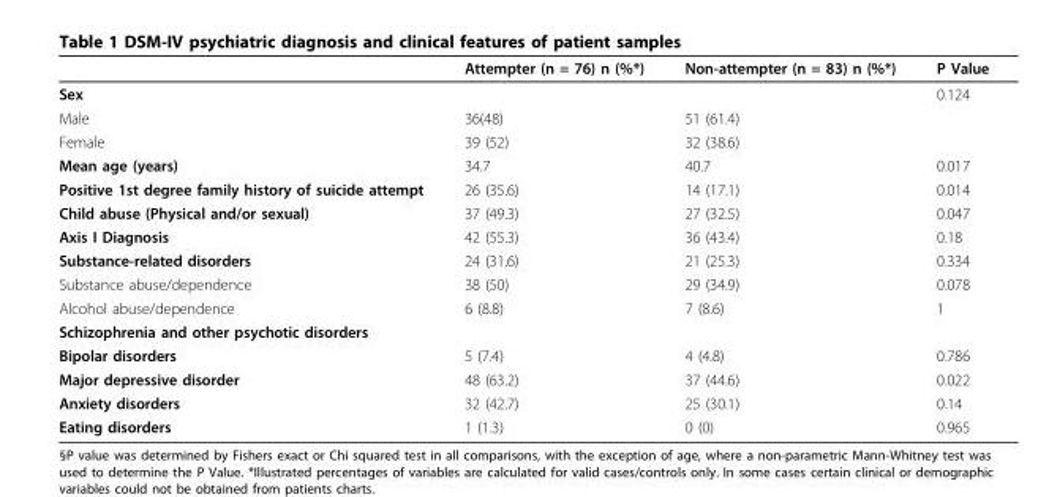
<table><thead><tr><td></td><td>Attempter (n = 76) n (%*)</td><td>Non-attempter (n = 83) n (%*)</td><td>P Value</td></tr></thead><tbody><tr><td>Sex</td><td></td><td></td><td>0.124</td></tr><tr><td>Male</td><td>36(48)</td><td>51 (61.4)</td><td></td></tr><tr><td>Female</td><td>39 (52)</td><td>32 (38.6)</td><td></td></tr><tr><td>Mean age (years)</td><td>34.7</td><td>40.7</td><td>0.017</td></tr><tr><td>Positive 1st degree family history of suicide attempt</td><td>26 (35.6)</td><td>14 (17.1)</td><td>0.014</td></tr><tr><td>Child abuse (Physical and/or sexual)</td><td>37 (49.3)</td><td>27 (32.5)</td><td>0.047</td></tr><tr><td>Axis I Diagnosis</td><td>42 (55.3)</td><td>36 (43.4)</td><td>0.18</td></tr><tr><td>Substance-related disorders</td><td>24 (31.6)</td><td>21 (25.3)</td><td>0.334</td></tr><tr><td>Substance abuse/dependence</td><td>38 (50)</td><td>29 (34.9)</td><td>0.078</td></tr><tr><td>Alcohol abuse/dependence</td><td>6 (8.8)</td><td>7 (8.6)</td><td>1</td></tr><tr><td colspan="4">Schizophrenia and other psychotic disorders</td></tr><tr><td>Bipolar disorders</td><td>5 (7.4)</td><td>4 (4.8)</td><td>0.786</td></tr><tr><td>Major depressive disorder</td><td>48 (63.2)</td><td>37 (44.6)</td><td>0.022</td></tr><tr><td>Anxiety disorders</td><td>32 (42.7)</td><td>25 (30.1)</td><td>0.14</td></tr><tr><td>Eating disorders</td><td>1 (1.3)</td><td>0 (0)</td><td>0.965</td></tr></tbody></table>